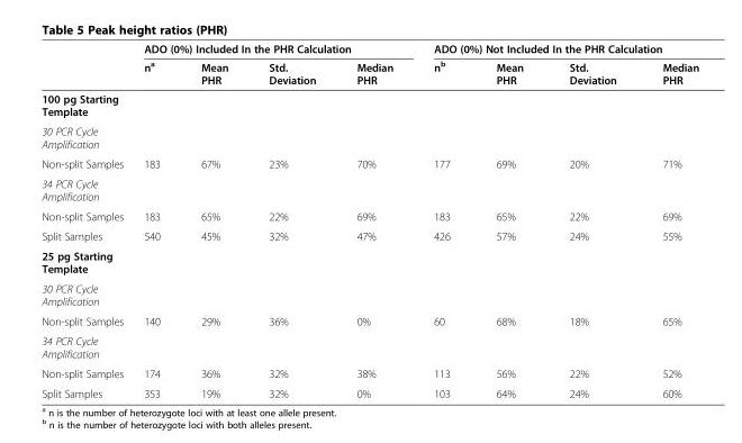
<table><thead><tr><td rowspan="2"></td><td colspan="4">ADO (0%) Included In the PHR Calculation</td><td colspan="4">ADO (0%) Not Included In the PHR Calculation</td></tr><tr><td>n<sup>a</sup></td><td>Mean PHR</td><td>Std. Deviation</td><td>Median PHR</td><td>n<sup>b</sup></td><td>Mean PHR</td><td>Std. Deviation</td><td>Median PHR</td></tr></thead><tbody><tr><td colspan="9">100 pg Starting Template</td></tr><tr><td colspan="9">30 PCR Cycle Amplification</td></tr><tr><td>Non-split Samples</td><td>183</td><td>67%</td><td>23%</td><td>70%</td><td>177</td><td>69%</td><td>20%</td><td>71%</td></tr><tr><td colspan="9">34 PCR Cycle Amplification</td></tr><tr><td>Non-split Samples</td><td>183</td><td>65%</td><td>22%</td><td>69%</td><td>183</td><td>65%</td><td>22%</td><td>69%</td></tr><tr><td>Split Samples</td><td>540</td><td>45%</td><td>32%</td><td>47%</td><td>426</td><td>57%</td><td>24%</td><td>55%</td></tr><tr><td colspan="9">25 pg Starting Template</td></tr><tr><td colspan="9">30 PCR Cycle Amplification</td></tr><tr><td>Non-split Samples</td><td>140</td><td>29%</td><td>36%</td><td>0%</td><td>60</td><td>68%</td><td>18%</td><td>65%</td></tr><tr><td colspan="9">34 PCR Cycle Amplification</td></tr><tr><td>Non-split Samples</td><td>174</td><td>36%</td><td>32%</td><td>38%</td><td>113</td><td>56%</td><td>22%</td><td>52%</td></tr><tr><td>Split Samples</td><td>353</td><td>19%</td><td>32%</td><td>0%</td><td>103</td><td>64%</td><td>24%</td><td>60%</td></tr></tbody></table>